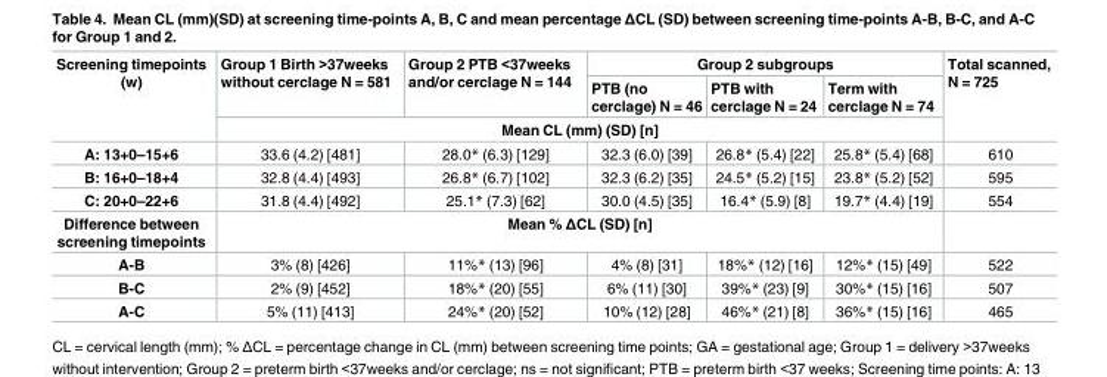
<table><thead><tr><td rowspan="3">Screening timepoints (w)</td><td rowspan="2">Group 1 Birth &gt;37weeks without cerclage N = 581</td><td rowspan="2">Group 2 PTB &lt;37weeks and/or cerclage N = 144</td><td colspan="3">Group 2 subgroups</td><td rowspan="3">Total scanned, N = 725</td></tr><tr><td>PTB (no cerclage) N = 46</td><td>PTB with cerclage N = 24</td><td>Term with cerclage N = 74</td></tr><tr><td colspan="5">Mean CL (mm) (SD) [n]</td></tr></thead><tbody><tr><td>A: 13+0–15+6</td><td>33.6 (4.2) [481]</td><td>28.0* (6.3) [129]</td><td>32.3 (6.0) [39]</td><td>26.8* (5.4) [22]</td><td>25.8* (5.4) [68]</td><td>610</td></tr><tr><td>B: 16+0–18+4</td><td>32.8 (4.4) [493]</td><td>26.8* (6.7) [102]</td><td>32.3 (6.2) [35]</td><td>24.5* (5.2) [15]</td><td>23.8* (5.2) [52]</td><td>595</td></tr><tr><td>C: 20+0–22+6</td><td>31.8 (4.4) [492]</td><td>25.1* (7.3) [62]</td><td>30.0 (4.5) [35]</td><td>16.4* (5.9) [8]</td><td>19.7* (4.4) [19]</td><td>554</td></tr><tr><td>Difference between screening timepoints</td><td colspan="5">Mean % ΔCL (SD) [n]</td><td></td></tr><tr><td>A-B</td><td>3% (8) [426]</td><td>11%* (13) [96]</td><td>4% (8) [31]</td><td>18%* (12) [16]</td><td>12%* (15) [49]</td><td>522</td></tr><tr><td>B-C</td><td>2% (9) [452]</td><td>18%* (20) [55]</td><td>6% (11) [30]</td><td>39%* (23) [9]</td><td>30%* (15) [16]</td><td>507</td></tr><tr><td>A-C</td><td>5% (11) [413]</td><td>24%* (20) [52]</td><td>10% (12) [28]</td><td>46%* (21) [8]</td><td>36%* (15) [16]</td><td>465</td></tr></tbody></table>